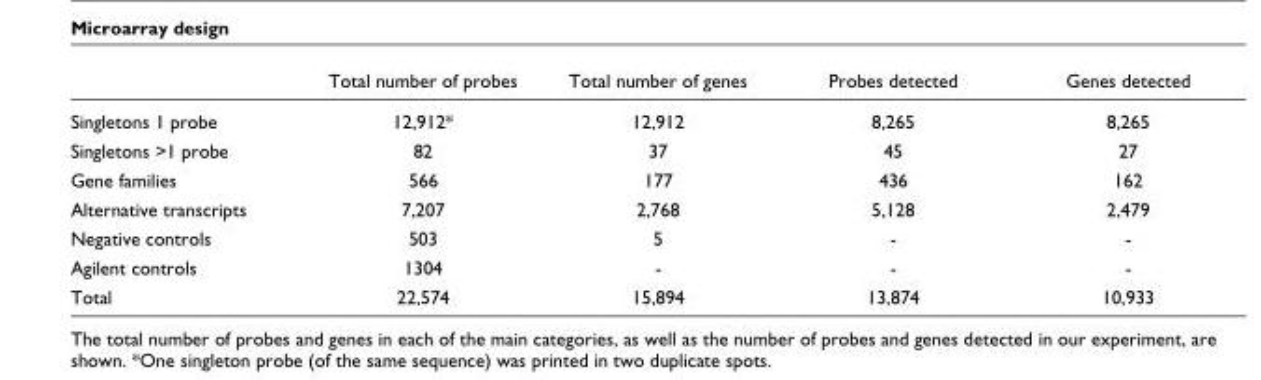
<table><thead><tr><td></td><td>Total number of probes</td><td>Total number of genes</td><td>Probes detected</td><td>Genes detected</td></tr></thead><tbody><tr><td>Singletons 1 probe</td><td>12,912*</td><td>12,912</td><td>8,265</td><td>8,265</td></tr><tr><td>Singletons &gt;1 probe</td><td>82</td><td>37</td><td>45</td><td>27</td></tr><tr><td>Gene families</td><td>566</td><td>177</td><td>436</td><td>162</td></tr><tr><td>Alternative transcripts</td><td>7,207</td><td>2,768</td><td>5,128</td><td>2,479</td></tr><tr><td>Negative controls</td><td>503</td><td>5</td><td>-</td><td>-</td></tr><tr><td>Agilent controls</td><td>1304</td><td>-</td><td>-</td><td>-</td></tr><tr><td>Total</td><td>22,574</td><td>15,894</td><td>13,874</td><td>10,933</td></tr></tbody></table>